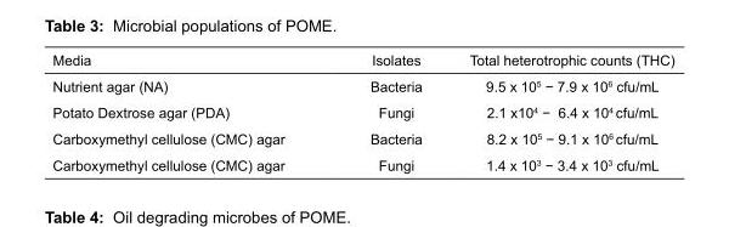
<table><thead><tr><td>Media</td><td>Isolates</td><td>Total heterotrophic counts (THC)</td></tr></thead><tbody><tr><td>Nutrient agar (NA)</td><td>Bacteria</td><td>9.5 x 105 − 7.9 x 106 cfu/mL</td></tr><tr><td>Potato Dextrose agar (PDA)</td><td>Fungi</td><td>2.1 x104 − 6.4 x 104 cfu/mL</td></tr><tr><td>Carboxymethyl cellulose (CMC) agar</td><td>Bacteria</td><td>8.2 x 105 − 9.1 x 106 cfu/mL</td></tr><tr><td>Carboxymethyl cellulose (CMC) agar</td><td>Fungi</td><td>1.4 x 103 − 3.4 x 103 cfu/mL</td></tr></tbody></table>